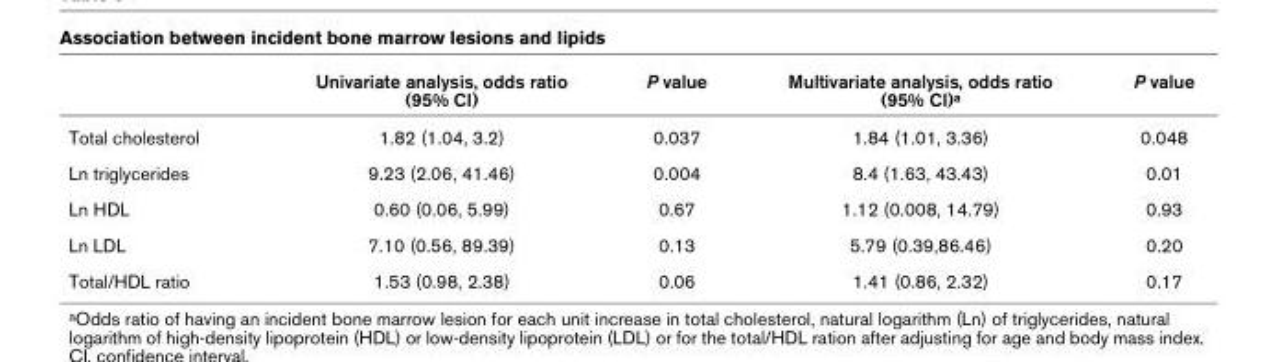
<table><thead><tr><td></td><td>Univariate analysis, odds ratio (95% CI)</td><td>P value</td><td>Multivariate analysis, odds ratio (95% CI)<sup>a</sup></td><td>P value</td></tr></thead><tbody><tr><td>Total cholesterol</td><td>1.82 (1.04, 3.2)</td><td>0.037</td><td>1.84 (1.01, 3.36)</td><td>0.048</td></tr><tr><td>Ln triglycerides</td><td>9.23 (2.06, 41.46)</td><td>0.004</td><td>8.4 (1.63, 43.43)</td><td>0.01</td></tr><tr><td>Ln HDL</td><td>0.60 (0.06, 5.99)</td><td>0.67</td><td>1.12 (0.008, 14.79)</td><td>0.93</td></tr><tr><td>Ln LDL</td><td>7.10 (0.56, 89.39)</td><td>0.13</td><td>5.79 (0.39,86.46)</td><td>0.20</td></tr><tr><td>Total/HDL ratio</td><td>1.53 (0.98, 2.38)</td><td>0.06</td><td>1.41 (0.86, 2.32)</td><td>0.17</td></tr></tbody></table>